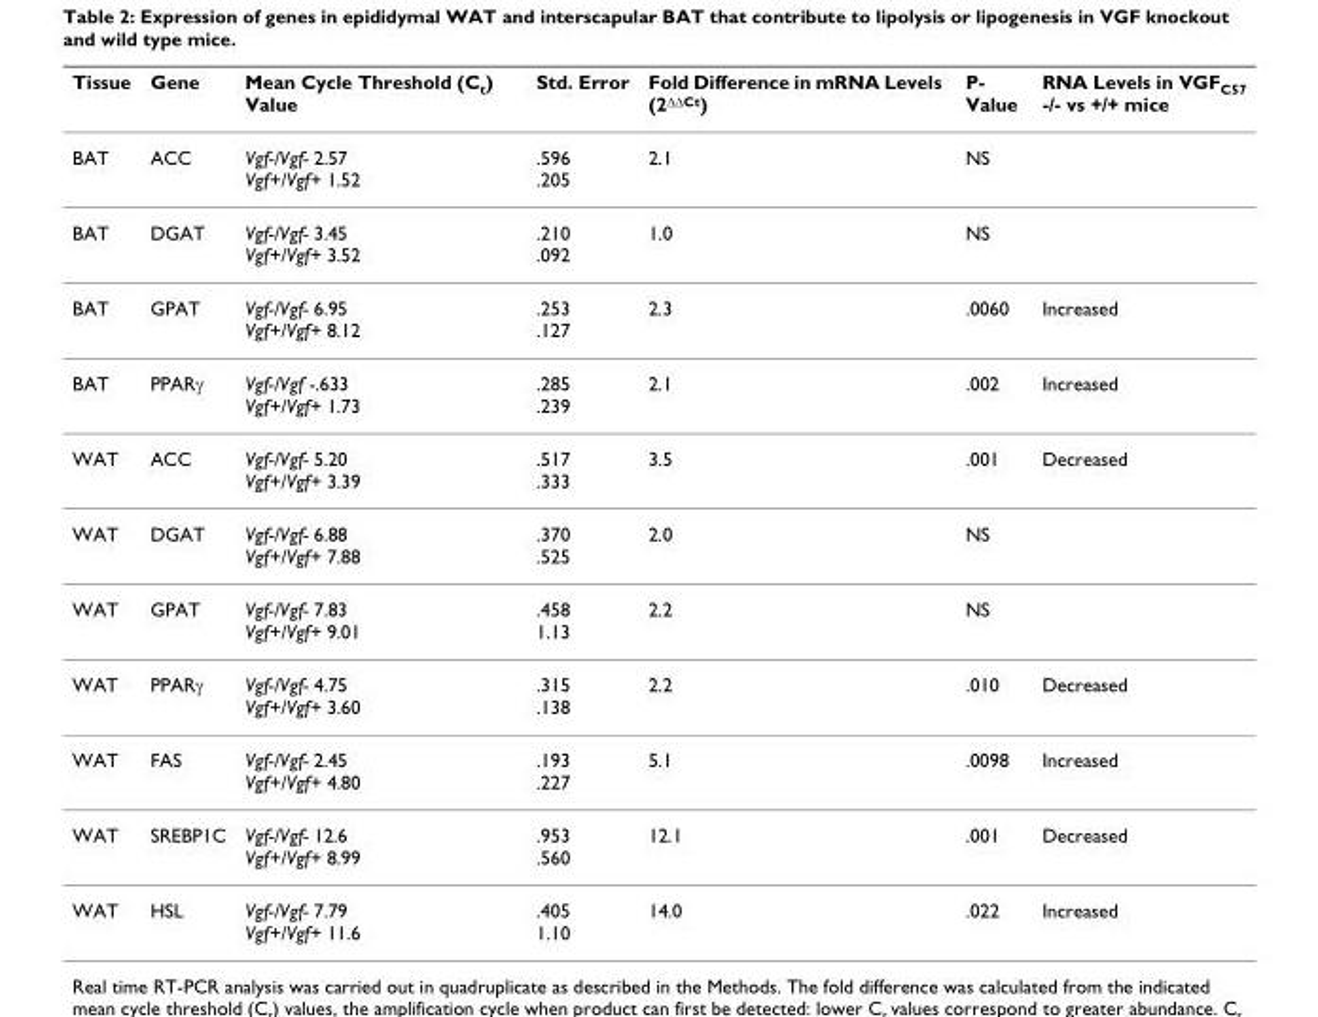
<table><thead><tr><td>Tissue</td><td>Gene</td><td>Mean Cycle Threshold (C<sub>t</sub>) Value</td><td>Std. Error</td><td>Fold Difference in mRNA Levels (2<sup>ΔΔCt</sup>)</td><td>P- Value</td><td>RNA Levels in VGF<sub>C57</sub> -/- vs +/+ mice</td></tr></thead><tbody><tr><td>BAT</td><td>ACC</td><td>Vgf-/Vgf- 2.57 Vgf+/Vgf+ 1.52</td><td>.596 .205</td><td>2.1</td><td>NS</td><td></td></tr><tr><td>BAT</td><td>DGAT</td><td>Vgf-/Vgf- 3.45 Vgf+/Vgf+ 3.52</td><td>.210 .092</td><td>1.0</td><td>NS</td><td></td></tr><tr><td>BAT</td><td>GPAT</td><td>Vgf-/Vgf- 6.95 Vgf+/Vgf+ 8.12</td><td>.253 .127</td><td>2.3</td><td>.0060</td><td>Increased</td></tr><tr><td>BAT</td><td>PPARγ</td><td>Vgf-/Vgf -.633 Vgf+/Vgf+ 1.73</td><td>.285 .239</td><td>2.1</td><td>.002</td><td>Increased</td></tr><tr><td>WAT</td><td>ACC</td><td>Vgf-/Vgf- 5.20 Vgf+/Vgf+ 3.39</td><td>.517 .333</td><td>3.5</td><td>.001</td><td>Decreased</td></tr><tr><td>WAT</td><td>DGAT</td><td>Vgf-/Vgf- 6.88 Vgf+/Vgf+ 7.88</td><td>.370 .525</td><td>2.0</td><td>NS</td><td></td></tr><tr><td>WAT</td><td>GPAT</td><td>Vgf-/Vgf- 7.83 Vgf+/Vgf+ 9.01</td><td>.458 1.13</td><td>2.2</td><td>NS</td><td></td></tr><tr><td>WAT</td><td>PPARγ</td><td>Vgf-/Vgf- 4.75 Vgf+/Vgf+ 3.60</td><td>.315 .138</td><td>2.2</td><td>.010</td><td>Decreased</td></tr><tr><td>WAT</td><td>FAS</td><td>Vgf-/Vgf- 2.45 Vgf+/Vgf+ 4.80</td><td>.193 .227</td><td>5.1</td><td>.0098</td><td>Increased</td></tr><tr><td>WAT</td><td>SREBP1C</td><td>Vgf-/Vgf- 12.6 Vgf+/Vgf+ 8.99</td><td>.953 .560</td><td>12.1</td><td>.001</td><td>Decreased</td></tr><tr><td>WAT</td><td>HSL</td><td>Vgf-/Vgf- 7.79 Vgf+/Vgf+ 11.6</td><td>.405 1.10</td><td>14.0</td><td>.022</td><td>Increased</td></tr></tbody></table>